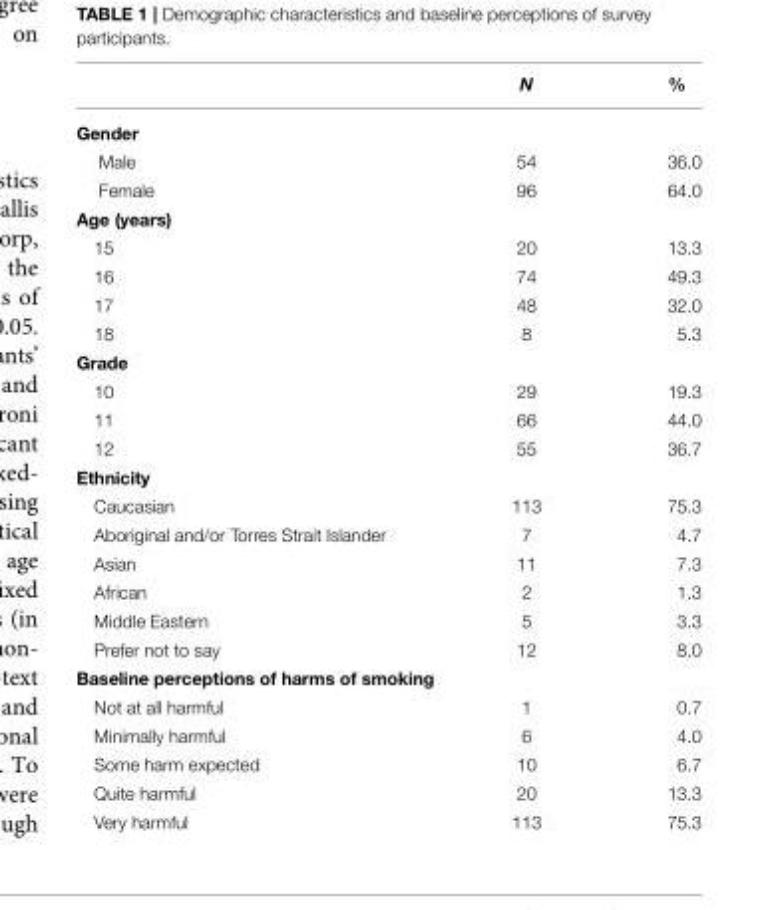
<table><thead><tr><td></td><td>N</td><td>%</td></tr></thead><tbody><tr><td colspan="3">Gender</td></tr><tr><td>Male</td><td>54</td><td>36.0</td></tr><tr><td>Female</td><td>96</td><td>64.0</td></tr><tr><td colspan="3">Age (years)</td></tr><tr><td>15</td><td>20</td><td>13.3</td></tr><tr><td>16</td><td>74</td><td>49.3</td></tr><tr><td>17</td><td>48</td><td>32.0</td></tr><tr><td>18</td><td>8</td><td>5.3</td></tr><tr><td colspan="3">Grade</td></tr><tr><td>10</td><td>29</td><td>19.3</td></tr><tr><td>11</td><td>66</td><td>44.0</td></tr><tr><td>12</td><td>55</td><td>36.7</td></tr><tr><td colspan="3">Ethnicity</td></tr><tr><td>Caucasian</td><td>113</td><td>75.3</td></tr><tr><td>Aboriginal and/or Torres Strait Islander</td><td>7</td><td>4.7</td></tr><tr><td>Asian</td><td>11</td><td>7.3</td></tr><tr><td>African</td><td>2</td><td>1.3</td></tr><tr><td>Middle Eastern</td><td>5</td><td>3.3</td></tr><tr><td>Prefer not to say</td><td>12</td><td>8.0</td></tr><tr><td colspan="3">Baseline perceptions of harms of smoking</td></tr><tr><td>Not at all harmful</td><td>1</td><td>0.7</td></tr><tr><td>Minimally harmful</td><td>6</td><td>4.0</td></tr><tr><td>Some harm expected</td><td>10</td><td>6.7</td></tr><tr><td>Quite harmful</td><td>20</td><td>13.3</td></tr><tr><td>Very harmful</td><td>113</td><td>75.3</td></tr></tbody></table>